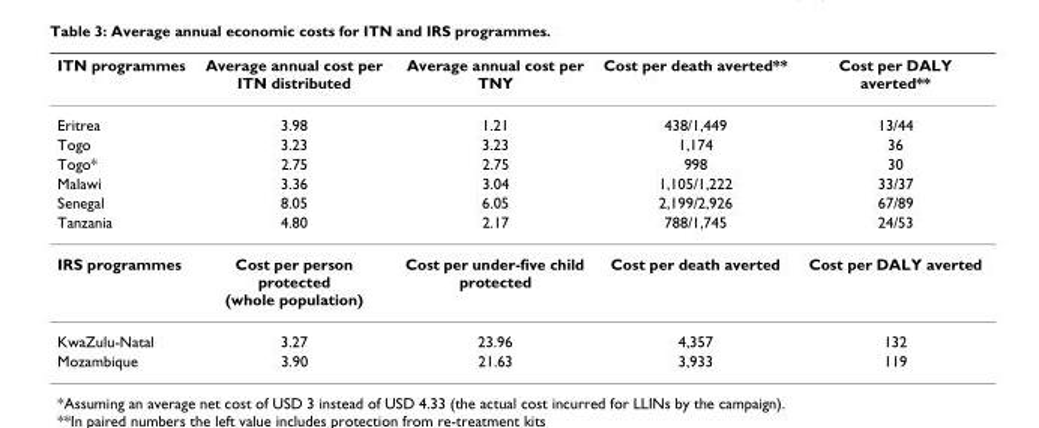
<table><thead><tr><td>ITN programmes</td><td>Average annual cost per ITN distributed</td><td>Average annual cost per TNY</td><td>Cost per death averted**</td><td>Cost per DALY averted**</td></tr></thead><tbody><tr><td>Eritrea</td><td>3.98</td><td>1.21</td><td>438/1,449</td><td>13/44</td></tr><tr><td>Togo</td><td>3.23</td><td>3.23</td><td>1,174</td><td>36</td></tr><tr><td>Togo*</td><td>2.75</td><td>2.75</td><td>998</td><td>30</td></tr><tr><td>Malawi</td><td>3.36</td><td>3.04</td><td>1,105/1,222</td><td>33/37</td></tr><tr><td>Senegal</td><td>8.05</td><td>6.05</td><td>2,199/2,926</td><td>67/89</td></tr><tr><td>Tanzania</td><td>4.80</td><td>2.17</td><td>788/1,745</td><td>24/53</td></tr><tr><td>IRS programmes</td><td>Cost per person protected (whole population)</td><td>Cost per under-five child protected</td><td>Cost per death averted</td><td>Cost per DALY averted</td></tr><tr><td>KwaZulu-Natal</td><td>3.27</td><td>23.96</td><td>4,357</td><td>132</td></tr><tr><td>Mozambique</td><td>3.90</td><td>21.63</td><td>3,933</td><td>119</td></tr></tbody></table>